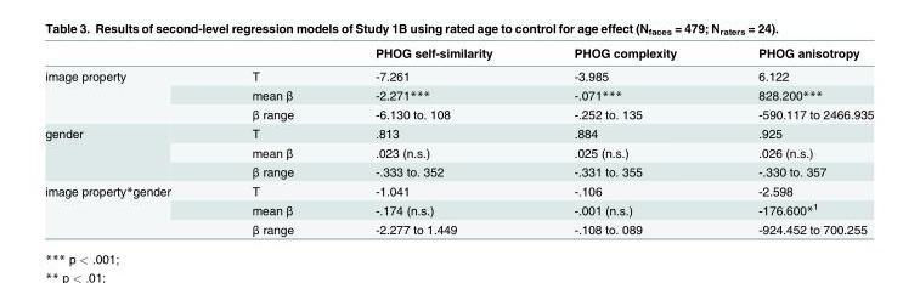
<table><thead><tr><td></td><td></td><td>PHOG self-similarity</td><td>PHOG complexity</td><td>PHOG anisotropy</td></tr></thead><tbody><tr><td rowspan="3">image property</td><td>T</td><td>-7.261</td><td>-3.985</td><td>6.122</td></tr><tr><td>mean β</td><td>-2.271***</td><td>-.071***</td><td>828.200***</td></tr><tr><td>β range</td><td>-6.130 to. 108</td><td>-.252 to. 135</td><td>-590.117 to 2466.935</td></tr><tr><td rowspan="3">gender</td><td>T</td><td>.813</td><td>.884</td><td>.925</td></tr><tr><td>mean β</td><td>.023 (n.s.)</td><td>.025 (n.s.)</td><td>.026 (n.s.)</td></tr><tr><td>β range</td><td>-.333 to. 352</td><td>-.331 to. 355</td><td>-.330 to. 357</td></tr><tr><td rowspan="3">image property*gender</td><td>T</td><td>-1.041</td><td>-.106</td><td>-2.598</td></tr><tr><td>mean β</td><td>-.174 (n.s.)</td><td>-.001 (n.s.)</td><td>-176.600*<sup>1</sup></td></tr><tr><td>β range</td><td>-2.277 to 1.449</td><td>-.108 to. 089</td><td>-924.452 to 700.255</td></tr></tbody></table>